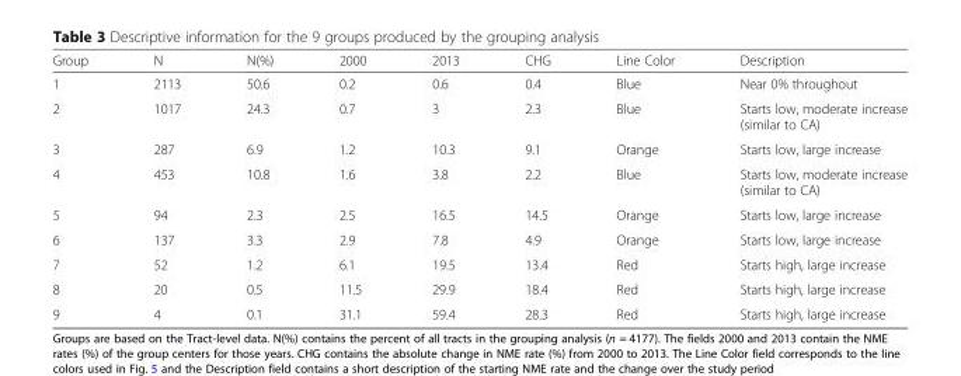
<table><thead><tr><td>Group</td><td>N</td><td>N(%)</td><td>2000</td><td>2013</td><td>CHG</td><td>Line Color</td><td>Description</td></tr></thead><tbody><tr><td>1</td><td>2113</td><td>50.6</td><td>0.2</td><td>0.6</td><td>0.4</td><td>Blue</td><td>Near 0% throughout</td></tr><tr><td>2</td><td>1017</td><td>24.3</td><td>0.7</td><td>3</td><td>2.3</td><td>Blue</td><td>Starts low, moderate increase (similar to CA)</td></tr><tr><td>3</td><td>287</td><td>6.9</td><td>1.2</td><td>10.3</td><td>9.1</td><td>Orange</td><td>Starts low, large increase</td></tr><tr><td>4</td><td>453</td><td>10.8</td><td>1.6</td><td>3.8</td><td>2.2</td><td>Blue</td><td>Starts low, moderate increase (similar to CA)</td></tr><tr><td>5</td><td>94</td><td>2.3</td><td>2.5</td><td>16.5</td><td>14.5</td><td>Orange</td><td>Starts low, large increase</td></tr><tr><td>6</td><td>137</td><td>3.3</td><td>2.9</td><td>7.8</td><td>4.9</td><td>Orange</td><td>Starts low, large increase</td></tr><tr><td>7</td><td>52</td><td>1.2</td><td>6.1</td><td>19.5</td><td>13.4</td><td>Red</td><td>Starts high, large increase</td></tr><tr><td>8</td><td>20</td><td>0.5</td><td>11.5</td><td>29.9</td><td>18.4</td><td>Red</td><td>Starts high, large increase</td></tr><tr><td>9</td><td>4</td><td>0.1</td><td>31.1</td><td>59.4</td><td>28.3</td><td>Red</td><td>Starts high, large increase</td></tr></tbody></table>